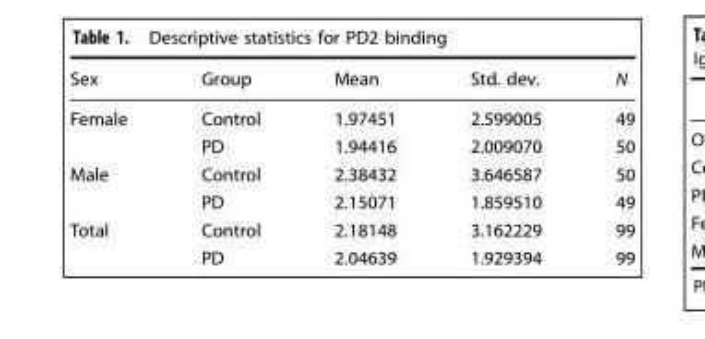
<table><thead><tr><td>Sex</td><td>Group</td><td>Mean</td><td>Std. dev.</td><td>N</td></tr></thead><tbody><tr><td rowspan="2">Female</td><td>Control</td><td>1.97451</td><td>2.599005</td><td>49</td></tr><tr><td>PD</td><td>1.94416</td><td>2.009070</td><td>50</td></tr><tr><td rowspan="2">Male</td><td>Control</td><td>2.38432</td><td>3.646587</td><td>50</td></tr><tr><td>PD</td><td>2.15071</td><td>1.859510</td><td>49</td></tr><tr><td rowspan="2">Total</td><td>Control</td><td>2.18148</td><td>3.162229</td><td>99</td></tr><tr><td>PD</td><td>2.04639</td><td>1.929394</td><td>99</td></tr></tbody></table>